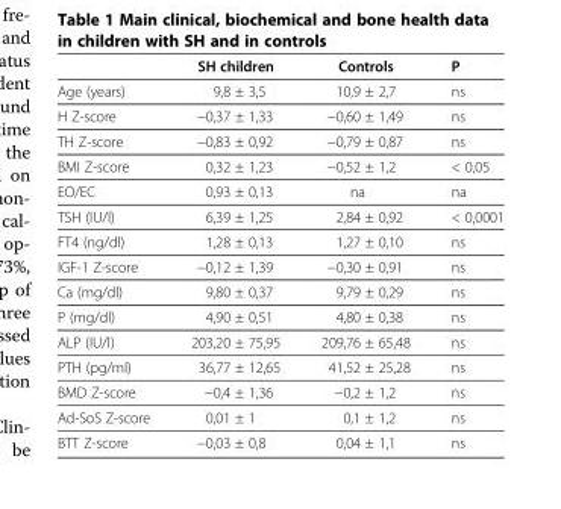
<table><thead><tr><td></td><td>SH children</td><td>Controls</td><td>P</td></tr></thead><tbody><tr><td>Age (years)</td><td>9,8 ± 3,5</td><td>10,9 ± 2,7</td><td>ns</td></tr><tr><td>H Z-score</td><td>−0,37 ± 1,33</td><td>−0,60 ± 1,49</td><td>ns</td></tr><tr><td>TH Z-score</td><td>−0,83 ± 0,92</td><td>−0,79 ± 0,87</td><td>ns</td></tr><tr><td>BMI Z-score</td><td>0,32 ± 1,23</td><td>−0,52 ± 1,2</td><td>&lt; 0,05</td></tr><tr><td>EO/EC</td><td>0,93 ± 0,13</td><td>na</td><td>na</td></tr><tr><td>TSH (IU/l)</td><td>6,39 ± 1,25</td><td>2,84 ± 0,92</td><td>&lt; 0,0001</td></tr><tr><td>FT4 (ng/dl)</td><td>1,28 ± 0,13</td><td>1,27 ± 0,10</td><td>ns</td></tr><tr><td>IGF-1 Z-score</td><td>−0,12 ± 1,39</td><td>−0,30 ± 0,91</td><td>ns</td></tr><tr><td>Ca (mg/dl)</td><td>9,80 ± 0,37</td><td>9,79 ± 0,29</td><td>ns</td></tr><tr><td>P (mg/dl)</td><td>4,90 ± 0,51</td><td>4,80 ± 0,38</td><td>ns</td></tr><tr><td>ALP (IU/l)</td><td>203,20 ± 75,95</td><td>209,76 ± 65,48</td><td>ns</td></tr><tr><td>PTH (pg/ml)</td><td>36,77 ± 12,65</td><td>41,52 ± 25,28</td><td>ns</td></tr><tr><td>BMD Z-score</td><td>−0,4 ± 1,36</td><td>−0,2 ± 1,2</td><td>ns</td></tr><tr><td>Ad-SoS Z-score</td><td>0,01 ± 1</td><td>0,1 ± 1,2</td><td>ns</td></tr><tr><td>BTT Z-score</td><td>−0,03 ± 0,8</td><td>0,04 ± 1,1</td><td>ns</td></tr></tbody></table>